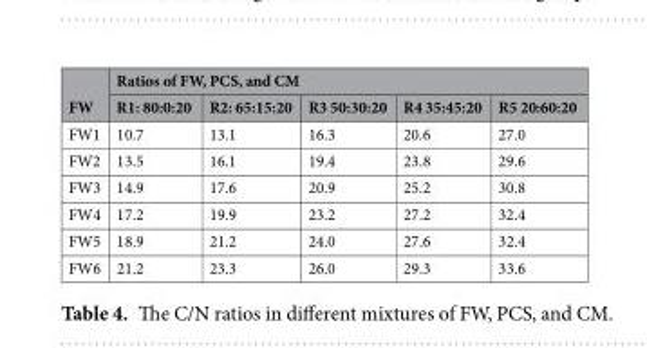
<table><thead><tr><td rowspan="2">FW</td><td colspan="5">Ratios of FW, PCS, and CM</td></tr><tr><td>R1: 80:0:20</td><td>R2: 65:15:20</td><td>R3 50:30:20</td><td>R4 35:45:20</td><td>R5 20:60:20</td></tr></thead><tbody><tr><td>FW1</td><td>10.7</td><td>13.1</td><td>16.3</td><td>20.6</td><td>27.0</td></tr><tr><td>FW2</td><td>13.5</td><td>16.1</td><td>19.4</td><td>23.8</td><td>29.6</td></tr><tr><td>FW3</td><td>14.9</td><td>17.6</td><td>20.9</td><td>25.2</td><td>30.8</td></tr><tr><td>FW4</td><td>17.2</td><td>19.9</td><td>23.2</td><td>27.2</td><td>32.4</td></tr><tr><td>FW5</td><td>18.9</td><td>21.2</td><td>24.0</td><td>27.6</td><td>32.4</td></tr><tr><td>FW6</td><td>21.2</td><td>23.3</td><td>26.0</td><td>29.3</td><td>33.6</td></tr></tbody></table>